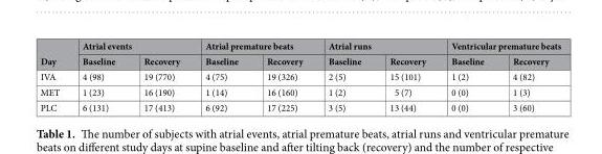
<table><thead><tr><td rowspan="2">Day</td><td colspan="2">Atrial events</td><td colspan="2">Atrial premature beats</td><td colspan="2">Atrial runs</td><td colspan="2">Ventricular premature beats</td></tr><tr><td>Baseline</td><td>Recovery</td><td>Baseline</td><td>Recovery</td><td>Baseline</td><td>Recovery</td><td>Baseline</td><td>Recovery</td></tr></thead><tbody><tr><td>IVA</td><td>4 (98)</td><td>19 (770)</td><td>4 (75)</td><td>19 (326)</td><td>2 (5)</td><td>15 (101)</td><td>1 (2)</td><td>4 (82)</td></tr><tr><td>MET</td><td>1 (23)</td><td>16 (190)</td><td>1 (14)</td><td>16 (160)</td><td>1 (2)</td><td>5 (7)</td><td>0 (0)</td><td>1 (3)</td></tr><tr><td>PLC</td><td>6 (131)</td><td>17 (413)</td><td>6 (92)</td><td>17 (225)</td><td>3 (5)</td><td>13 (44)</td><td>0 (0)</td><td>3 (60)</td></tr></tbody></table>